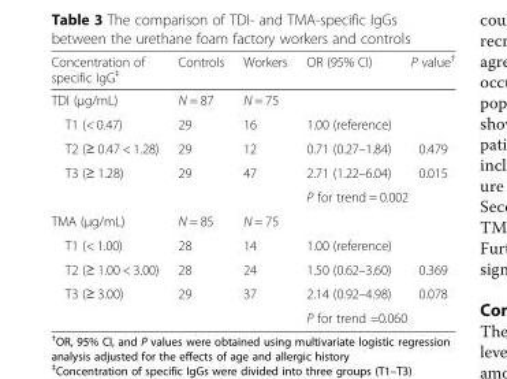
<table><thead><tr><td>Concentration of specific IgG<sup>‡</sup></td><td>Controls</td><td>Workers</td><td>OR (95% CI)</td><td>P value<sup>†</sup></td></tr></thead><tbody><tr><td>TDI (μg/mL)</td><td>N = 87</td><td>N = 75</td><td></td><td></td></tr><tr><td>T1 (&lt; 0.47)</td><td>29</td><td>16</td><td>1.00 (reference)</td><td></td></tr><tr><td>T2 (≥ 0.47 &lt; 1.28)</td><td>29</td><td>12</td><td>0.71 (0.27–1.84)</td><td>0.479</td></tr><tr><td>T3 (≥ 1.28)</td><td>29</td><td>47</td><td>2.71 (1.22–6.04)</td><td>0.015</td></tr><tr><td colspan="3"></td><td colspan="2">P for trend = 0.002</td></tr><tr><td>TMA (μg/mL)</td><td>N = 85</td><td>N = 75</td><td></td><td></td></tr><tr><td>T1 (&lt; 1.00)</td><td>28</td><td>14</td><td>1.00 (reference)</td><td></td></tr><tr><td>T2 (≥ 1.00 &lt; 3.00)</td><td>28</td><td>24</td><td>1.50 (0.62–3.60)</td><td>0.369</td></tr><tr><td rowspan="2">T3 (≥ 3.00)</td><td>29</td><td>37</td><td>2.14 (0.92–4.98)</td><td>0.078</td></tr><tr><td></td><td></td><td colspan="2">P for trend =0.060</td></tr></tbody></table>